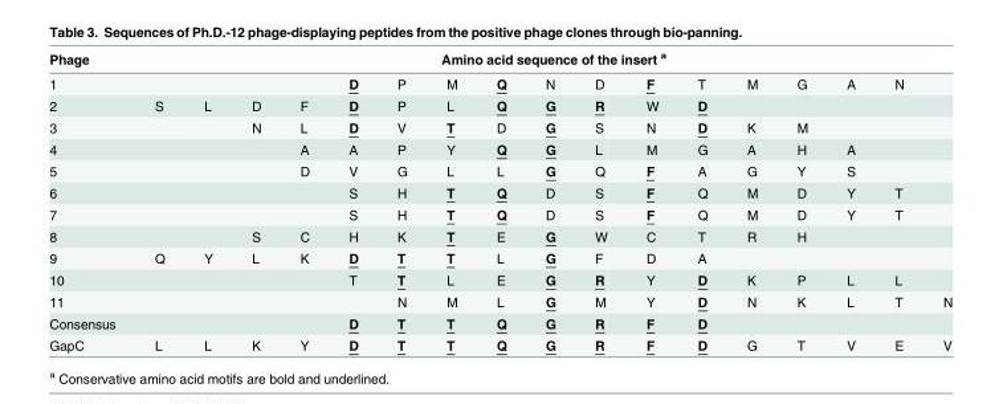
<table><thead><tr><td rowspan="2">Phage 1</td><td colspan="17">Amino acid sequence of the insert <sup>a</sup></td></tr><tr><td></td><td></td><td></td><td></td><td>D</td><td>P</td><td>M</td><td>Q</td><td>N</td><td>D</td><td>F</td><td>T</td><td>M</td><td>G</td><td>A</td><td>N</td><td></td></tr></thead><tbody><tr><td>2</td><td>S</td><td>L</td><td>D</td><td>F</td><td>D</td><td>P</td><td>L</td><td>Q</td><td>G</td><td>R</td><td>W</td><td>D</td><td></td><td></td><td></td><td></td><td></td></tr><tr><td>3</td><td></td><td></td><td>N</td><td>L</td><td>D</td><td>V</td><td>T</td><td>D</td><td>G</td><td>S</td><td>N</td><td>D</td><td>K</td><td>M</td><td></td><td></td><td></td></tr><tr><td>4</td><td></td><td></td><td></td><td>A</td><td>A</td><td>P</td><td>Y</td><td>Q</td><td>G</td><td>L</td><td>M</td><td>G</td><td>A</td><td>H</td><td>A</td><td></td><td></td></tr><tr><td>5</td><td></td><td></td><td></td><td>D</td><td>V</td><td>G</td><td>L</td><td>L</td><td>G</td><td>Q</td><td>F</td><td>A</td><td>G</td><td>Y</td><td>S</td><td></td><td></td></tr><tr><td>6</td><td></td><td></td><td></td><td></td><td>S</td><td>H</td><td>T</td><td>Q</td><td>D</td><td>S</td><td>F</td><td>Q</td><td>M</td><td>D</td><td>Y</td><td>T</td><td></td></tr><tr><td>7</td><td></td><td></td><td></td><td></td><td>S</td><td>H</td><td>T</td><td>Q</td><td>D</td><td>S</td><td>F</td><td>Q</td><td>M</td><td>D</td><td>Y</td><td>T</td><td></td></tr><tr><td>8</td><td></td><td></td><td>S</td><td>C</td><td>H</td><td>K</td><td>T</td><td>E</td><td>G</td><td>W</td><td>C</td><td>T</td><td>R</td><td>H</td><td></td><td></td><td></td></tr><tr><td>9</td><td>Q</td><td>Y</td><td>L</td><td>K</td><td>D</td><td>T</td><td>T</td><td>L</td><td>G</td><td>F</td><td>D</td><td>A</td><td></td><td></td><td></td><td></td><td></td></tr><tr><td>10</td><td></td><td></td><td></td><td></td><td>T</td><td>T</td><td>L</td><td>E</td><td>G</td><td>R</td><td>Y</td><td>D</td><td>K</td><td>P</td><td>L</td><td>L</td><td></td></tr><tr><td>11</td><td></td><td></td><td></td><td></td><td></td><td>N</td><td>M</td><td>L</td><td>G</td><td>M</td><td>Y</td><td>D</td><td>N</td><td>K</td><td>L</td><td>T</td><td>N</td></tr><tr><td>Consensus</td><td></td><td></td><td></td><td></td><td>D</td><td>T</td><td>T</td><td>Q</td><td>G</td><td>R</td><td>F</td><td>D</td><td></td><td></td><td></td><td></td><td></td></tr><tr><td>GapC</td><td>L</td><td>L</td><td>K</td><td>Y</td><td>D</td><td>T</td><td>T</td><td>Q</td><td>G</td><td>R</td><td>F</td><td>D</td><td>G</td><td>T</td><td>V</td><td>E</td><td>V</td></tr></tbody></table>